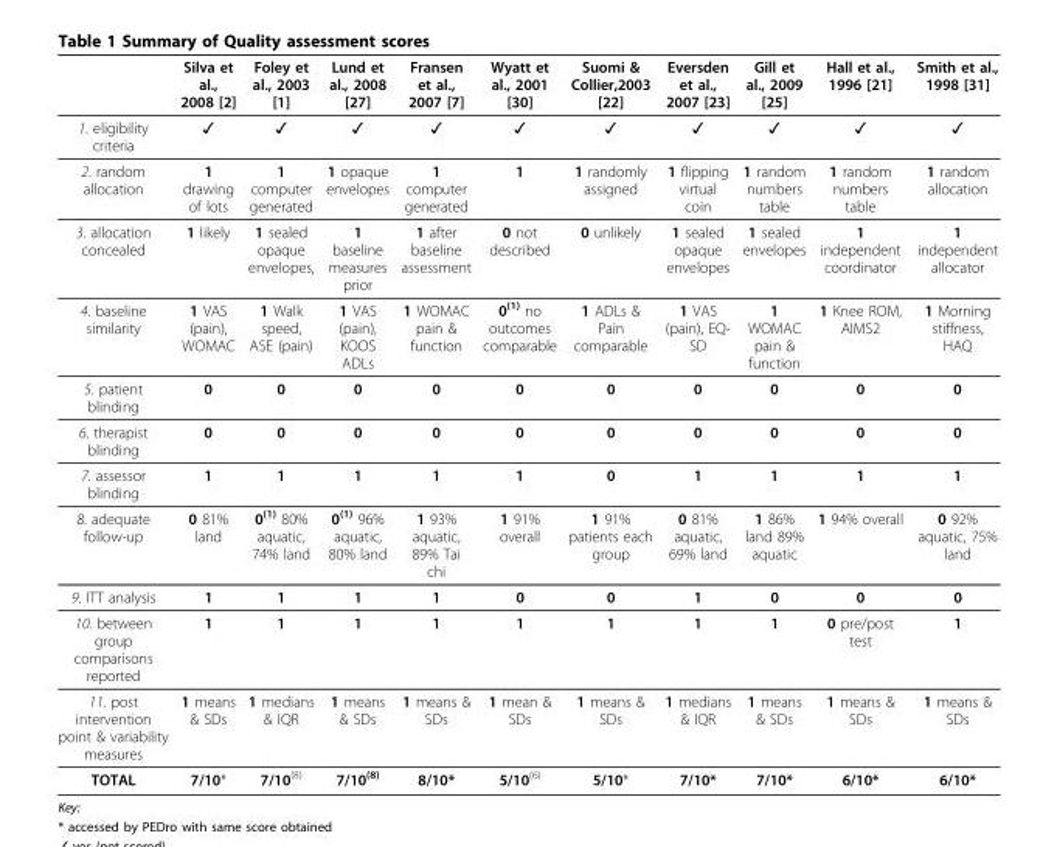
<table><thead><tr><td></td><td>Silva et al., 2008 [2]</td><td>Foley et al., 2003 [1]</td><td>Lund et al., 2008 [27]</td><td>Fransen et al., 2007 [7]</td><td>Wyatt et al., 2001 [30]</td><td>Suomi &amp; Collier,2003 [22]</td><td>Eversden et al., 2007 [23]</td><td>Gill et al., 2009 [25]</td><td>Hall et al., 1996 [21]</td><td>Smith et al., 1998 [31]</td></tr></thead><tbody><tr><td>1. eligibility criteria</td><td>✓</td><td>✓</td><td>✓</td><td>✓</td><td>✓</td><td>✓</td><td>✓</td><td>✓</td><td>✓</td><td>✓</td></tr><tr><td>2. random allocation</td><td>1 drawing of lots</td><td>1 computer generated</td><td>1 opaque envelopes</td><td>1 computer generated</td><td>1</td><td>1 randomly assigned</td><td>1 flipping virtual coin</td><td>1 random numbers table</td><td>1 random numbers table</td><td>1 random allocation</td></tr><tr><td>3. allocation concealed</td><td>1 likely</td><td>1 sealed opaque envelopes,</td><td>1 baseline measures prior</td><td>1 after baseline assessment</td><td>0 not described</td><td>0 unlikely</td><td>1 sealed opaque envelopes</td><td>1 sealed envelopes</td><td>1 independent coordinator</td><td>1 independent allocator</td></tr><tr><td>4. baseline similarity</td><td>1 VAS (pain), WOMAC</td><td>1 Walk speed, ASE (pain)</td><td>1 VAS (pain), KOOS ADLs</td><td>1 WOMAC pain &amp; function</td><td>0<sup>(1)</sup> no outcomes comparable</td><td>1 ADLs &amp; Pain comparable</td><td>1 VAS (pain), EQ- SD</td><td>1 WOMAC pain &amp; function</td><td>1 Knee ROM, AIMS2</td><td>1 Morning stiffness, HAQ</td></tr><tr><td>5. patient blinding</td><td>0</td><td>0</td><td>0</td><td>0</td><td>0</td><td>0</td><td>0</td><td>0</td><td>0</td><td>0</td></tr><tr><td>6. therapist blinding</td><td>0</td><td>0</td><td>0</td><td>0</td><td>0</td><td>0</td><td>0</td><td>0</td><td>0</td><td>0</td></tr><tr><td>7. assessor blinding</td><td>1</td><td>1</td><td>1</td><td>1</td><td>1</td><td>0</td><td>1</td><td>1</td><td>1</td><td>1</td></tr><tr><td>8. adequate follow-up</td><td>0 81% land</td><td>0<sup>(1)</sup> 80% aquatic, 74% land</td><td>0<sup>(1)</sup> 96% aquatic, 80% land</td><td>1 93% aquatic, 89% Tai chi</td><td>1 91% overall</td><td>1 91% patients each group</td><td>0 81% aquatic, 69% land</td><td>1 86% land 89% aquatic</td><td>1 94% overall</td><td>0 92% aquatic, 75% land</td></tr><tr><td>9. ITT analysis</td><td>1</td><td>1</td><td>1</td><td>1</td><td>0</td><td>0</td><td>1</td><td>0</td><td>0</td><td>0</td></tr><tr><td>10. between group comparisons reported</td><td>1</td><td>1</td><td>1</td><td>1</td><td>1</td><td>1</td><td>1</td><td>1</td><td>0 pre/post test</td><td>1</td></tr><tr><td>11. post intervention point &amp; variability measures</td><td>1 means &amp; SDs</td><td>1 medians &amp; IQR</td><td>1 means &amp; SDs</td><td>1 means &amp; SDs</td><td>1 mean &amp; SDs</td><td>1 means &amp; SDs</td><td>1 medians &amp; IQR</td><td>1 means &amp; SDs</td><td>1 means &amp; SDs</td><td>1 means &amp; SDs</td></tr><tr><td>TOTAL</td><td>7/10*</td><td>7/10<sup>(8)</sup></td><td>7/10<sup>(8)</sup></td><td>8/10*</td><td>5/10<sup>(6)</sup></td><td>5/10*</td><td>7/10*</td><td>7/10*</td><td>6/10*</td><td>6/10*</td></tr></tbody></table>